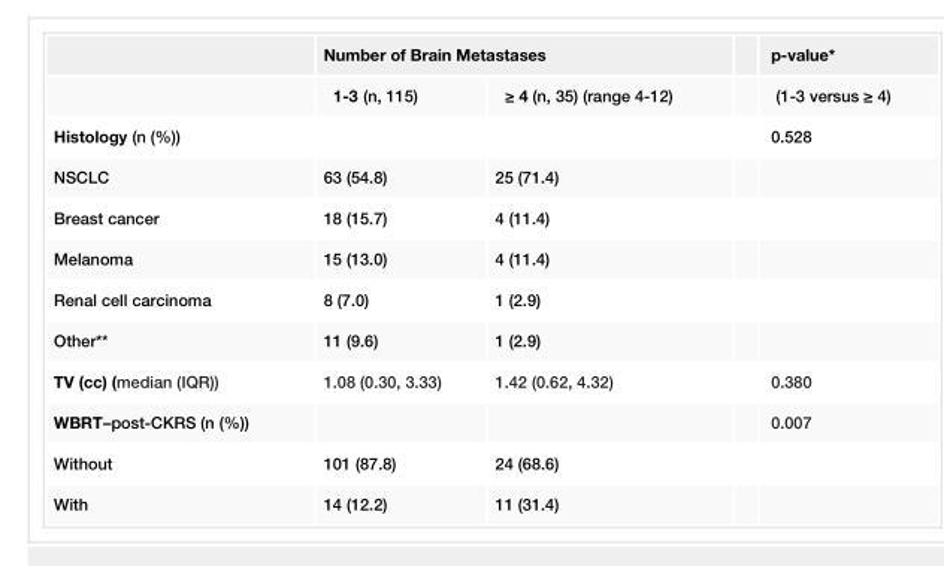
<table><thead><tr><td rowspan="2"></td><td colspan="2">Number of Brain Metastases</td><td rowspan="2">p-value* (1-3 versus ≥ 4)</td></tr><tr><td>1-3 (n, 115)</td><td>≥ 4 (n, 35) (range 4-12)</td></tr></thead><tbody><tr><td>Histology (n (%))</td><td></td><td></td><td>0.528</td></tr><tr><td>NSCLC</td><td>63 (54.8)</td><td>25 (71.4)</td><td></td></tr><tr><td>Breast cancer</td><td>18 (15.7)</td><td>4 (11.4)</td><td></td></tr><tr><td>Melanoma</td><td>15 (13.0)</td><td>4 (11.4)</td><td></td></tr><tr><td>Renal cell carcinoma</td><td>8 (7.0)</td><td>1 (2.9)</td><td></td></tr><tr><td>Other**</td><td>11 (9.6)</td><td>1 (2.9)</td><td></td></tr><tr><td>TV (cc) (median (IQR))</td><td>1.08 (0.30, 3.33)</td><td>1.42 (0.62, 4.32)</td><td>0.380</td></tr><tr><td>WBRT–post-CKRS (n (%))</td><td></td><td></td><td>0.007</td></tr><tr><td>Without</td><td>101 (87.8)</td><td>24 (68.6)</td><td></td></tr><tr><td>With</td><td>14 (12.2)</td><td>11 (31.4)</td><td></td></tr></tbody></table>